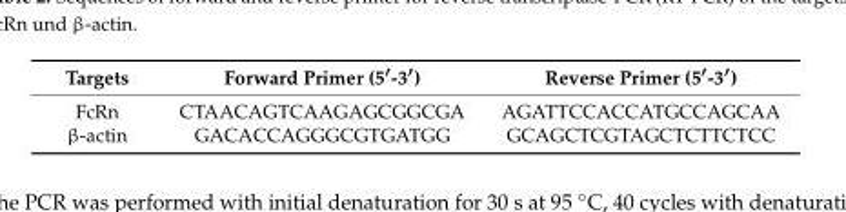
<table><thead><tr><td>Targets</td><td>Forward Primer (5′-3′)</td><td>Reverse Primer (5′-3′)</td></tr></thead><tbody><tr><td>FcRn</td><td>CTAACAGTCAAGAGCGGCGA</td><td>AGATTCCACCATGCCAGCAA</td></tr><tr><td>β-actin</td><td>GACACCAGGGCGTGATGG</td><td>GCAGCTCGTAGCTCTTCTCC</td></tr></tbody></table>